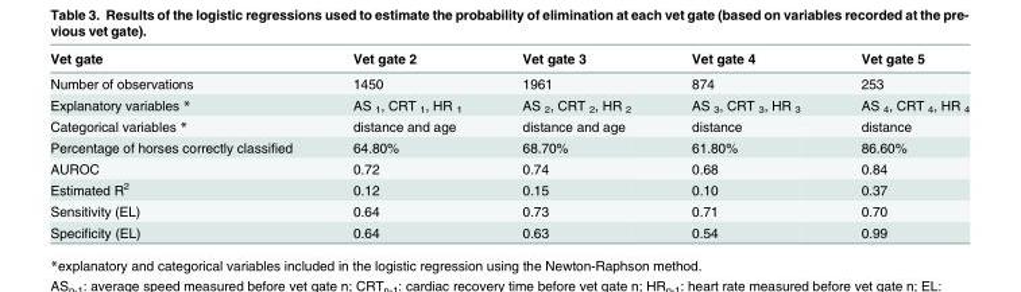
<table><thead><tr><td>Vet gate</td><td>Vet gate 2</td><td>Vet gate 3</td><td>Vet gate 4</td><td>Vet gate 5</td></tr></thead><tbody><tr><td>Number of observations</td><td>1450</td><td>1961</td><td>874</td><td>253</td></tr><tr><td>Explanatory variables *</td><td>AS <sub>1</sub>, CRT <sub>1</sub>, HR <sub>1</sub></td><td>AS <sub>2</sub>, CRT <sub>2</sub>, HR <sub>2</sub></td><td>AS <sub>3</sub>, CRT <sub>3</sub>, HR <sub>3</sub></td><td>AS <sub>4</sub>, CRT <sub>4</sub>, HR <sub>4</sub></td></tr><tr><td>Categorical variables *</td><td>distance and age</td><td>distance and age</td><td>distance</td><td>distance</td></tr><tr><td>Percentage of horses correctly classified</td><td>64.80%</td><td>68.70%</td><td>61.80%</td><td>86.60%</td></tr><tr><td>AUROC</td><td>0.72</td><td>0.74</td><td>0.68</td><td>0.84</td></tr><tr><td>Estimated R<sup>2</sup></td><td>0.12</td><td>0.15</td><td>0.10</td><td>0.37</td></tr><tr><td>Sensitivity (EL)</td><td>0.64</td><td>0.73</td><td>0.71</td><td>0.70</td></tr><tr><td>Specificity (EL)</td><td>0.64</td><td>0.63</td><td>0.54</td><td>0.99</td></tr></tbody></table>